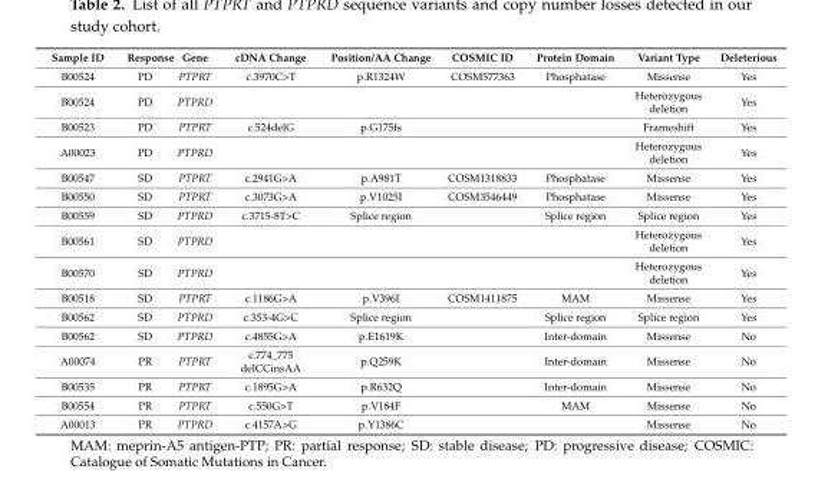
<table><thead><tr><td>Sample ID</td><td>Response</td><td>Gene</td><td>cDNA Change</td><td>Position/AA Change</td><td>COSMIC ID</td><td>Protein Domain</td><td>Variant Type</td><td>Deleterious</td></tr></thead><tbody><tr><td>B00524</td><td>PD</td><td>PTPRT</td><td>c.3970C&gt;T</td><td>p.R1324W</td><td>COSM577363</td><td>Phosphatase</td><td>Missense</td><td>Yes</td></tr><tr><td>B00524</td><td>PD</td><td>PTPRD</td><td></td><td></td><td></td><td></td><td>Heterozygous deletion</td><td>Yes</td></tr><tr><td>B00523</td><td>PD</td><td>PTPRT</td><td>c.524delG</td><td>p.G175fs</td><td></td><td></td><td>Frameshift</td><td>Yes</td></tr><tr><td>A00023</td><td>PD</td><td>PTPRD</td><td></td><td></td><td></td><td></td><td>Heterozygous deletion</td><td>Yes</td></tr><tr><td>B00547</td><td>SD</td><td>PTPRT</td><td>c.2941G&gt;A</td><td>p.A981T</td><td>COSM1318833</td><td>Phosphatase</td><td>Missense</td><td>Yes</td></tr><tr><td>B00550</td><td>SD</td><td>PTPRT</td><td>c.3073G&gt;A</td><td>p.V1025I</td><td>COSM3546449</td><td>Phosphatase</td><td>Missense</td><td>Yes</td></tr><tr><td>B00559</td><td>SD</td><td>PTPRD</td><td>c.3715-8T&gt;C</td><td>Splice region</td><td></td><td>Splice region</td><td>Splice region</td><td>Yes</td></tr><tr><td>B00561</td><td>SD</td><td>PTPRD</td><td></td><td></td><td></td><td></td><td>Heterozygous deletion</td><td>Yes</td></tr><tr><td>B00570</td><td>SD</td><td>PTPRD</td><td></td><td></td><td></td><td></td><td>Heterozygous deletion</td><td>Yes</td></tr><tr><td>B00518</td><td>SD</td><td>PTPRT</td><td>c.1186G&gt;A</td><td>p.V396I</td><td>COSM1411875</td><td>MAM</td><td>Missense</td><td>Yes</td></tr><tr><td>B00562</td><td>SD</td><td>PTPRD</td><td>c.353-4G&gt;C</td><td>Splice region</td><td></td><td>Splice region</td><td>Splice region</td><td>Yes</td></tr><tr><td>B00562</td><td>SD</td><td>PTPRD</td><td>c.4855G&gt;A</td><td>p.E1619K</td><td></td><td>Inter-domain</td><td>Missense</td><td>No</td></tr><tr><td>A00074</td><td>PR</td><td>PTPRT</td><td>c.774_775 delCCinsAA</td><td>p.Q259K</td><td></td><td>Inter-domain</td><td>Missense</td><td>No</td></tr><tr><td>B00535</td><td>PR</td><td>PTPRT</td><td>c.1895G&gt;A</td><td>p.R632Q</td><td></td><td>Inter-domain</td><td>Missense</td><td>No</td></tr><tr><td>B00554</td><td>PR</td><td>PTPRT</td><td>c.550G&gt;T</td><td>p.V184F</td><td></td><td>MAM</td><td>Missense</td><td>No</td></tr><tr><td>A00013</td><td>PR</td><td>PTPRD</td><td>c.4157A&gt;G</td><td>p.Y1386C</td><td></td><td></td><td>Missense</td><td>No</td></tr></tbody></table>